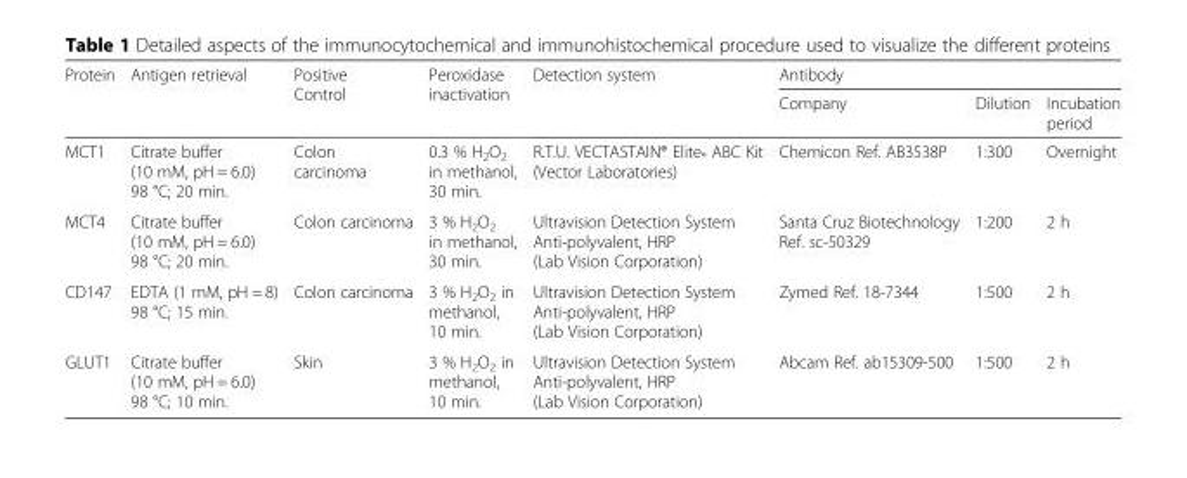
<table><thead><tr><td rowspan="2">Protein</td><td rowspan="2">Antigen retrieval</td><td rowspan="2">Positive Control</td><td rowspan="2">Peroxidase inactivation</td><td rowspan="2">Detection system</td><td colspan="3">Antibody</td></tr><tr><td>Company</td><td>Dilution</td><td>Incubation period</td></tr></thead><tbody><tr><td>MCT1</td><td>Citrate buffer (10 mM, pH = 6.0) 98 °C; 20 min.</td><td>Colon carcinoma</td><td>0.3 % H<sub>2</sub>O<sub>2</sub> in methanol, 30 min.</td><td>R.T.U. VECTASTAIN® Elite<sub>®</sub> ABC Kit (Vector Laboratories)</td><td>Chemicon Ref. AB3538P</td><td>1:300</td><td>Overnight</td></tr><tr><td>MCT4</td><td>Citrate buffer (10 mM, pH = 6.0) 98 °C; 20 min.</td><td>Colon carcinoma</td><td>3 % H<sub>2</sub>O<sub>2</sub> in methanol, 30 min.</td><td>Ultravision Detection System Anti-polyvalent, HRP (Lab Vision Corporation)</td><td>Santa Cruz Biotechnology Ref. sc-50329</td><td>1:200</td><td>2 h</td></tr><tr><td>CD147</td><td>EDTA (1 mM, pH = 8) 98 °C; 15 min.</td><td>Colon carcinoma</td><td>3 % H<sub>2</sub>O<sub>2</sub> in methanol, 10 min.</td><td>Ultravision Detection System Anti-polyvalent, HRP (Lab Vision Corporation)</td><td>Zymed Ref. 18-7344</td><td>1:500</td><td>2 h</td></tr><tr><td>GLUT1</td><td>Citrate buffer (10 mM, pH = 6.0) 98 °C; 10 min.</td><td>Skin</td><td>3 % H<sub>2</sub>O<sub>2</sub> in methanol, 10 min.</td><td>Ultravision Detection System Anti-polyvalent, HRP (Lab Vision Corporation)</td><td>Abcam Ref. ab15309-500</td><td>1:500</td><td>2 h</td></tr></tbody></table>